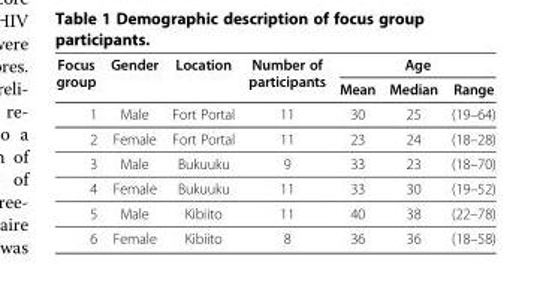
<table><thead><tr><td rowspan="2">Focus group</td><td rowspan="2">Gender</td><td rowspan="2">Location</td><td rowspan="2">Number of participants</td><td colspan="3">Age</td></tr><tr><td>Mean</td><td>Median</td><td>Range</td></tr></thead><tbody><tr><td>1</td><td>Male</td><td>Fort Portal</td><td>11</td><td>30</td><td>25</td><td>(19–64)</td></tr><tr><td>2</td><td>Female</td><td>Fort Portal</td><td>11</td><td>23</td><td>24</td><td>(18–28)</td></tr><tr><td>3</td><td>Male</td><td>Bukuuku</td><td>9</td><td>33</td><td>23</td><td>(18–70)</td></tr><tr><td>4</td><td>Female</td><td>Bukuuku</td><td>11</td><td>33</td><td>30</td><td>(19–52)</td></tr><tr><td>5</td><td>Male</td><td>Kibiito</td><td>11</td><td>40</td><td>38</td><td>(22–78)</td></tr><tr><td>6</td><td>Female</td><td>Kibiito</td><td>8</td><td>36</td><td>36</td><td>(18–58)</td></tr></tbody></table>